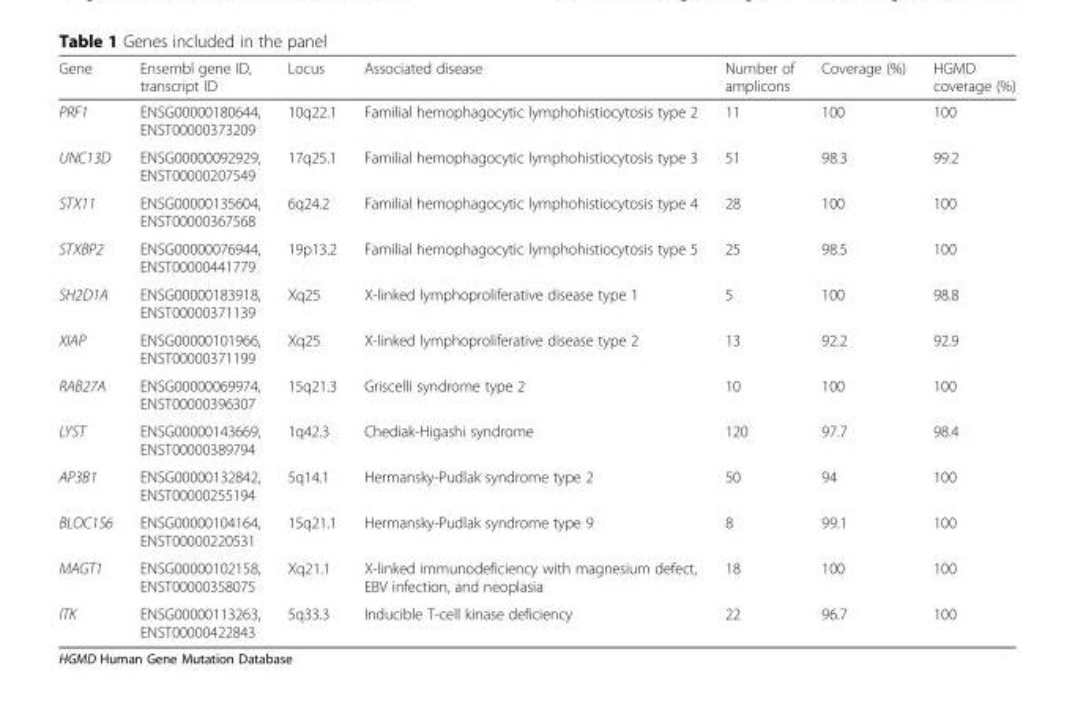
<table><thead><tr><td>Gene</td><td>Ensembl gene ID, transcript ID</td><td>Locus</td><td>Associated disease</td><td>Number of amplicons</td><td>Coverage (%)</td><td>HGMD coverage (%)</td></tr></thead><tbody><tr><td>PRF1</td><td>ENSG00000180644, ENST00000373209</td><td>10q22.1</td><td>Familial hemophagocytic lymphohistiocytosis type 2</td><td>11</td><td>100</td><td>100</td></tr><tr><td>UNC13D</td><td>ENSG00000092929, ENST00000207549</td><td>17q25.1</td><td>Familial hemophagocytic lymphohistiocytosis type 3</td><td>51</td><td>98.3</td><td>99.2</td></tr><tr><td>STX11</td><td>ENSG00000135604, ENST00000367568</td><td>6q24.2</td><td>Familial hemophagocytic lymphohistiocytosis type 4</td><td>28</td><td>100</td><td>100</td></tr><tr><td>STXBP2</td><td>ENSG00000076944, ENST00000441779</td><td>19p13.2</td><td>Familial hemophagocytic lymphohistiocytosis type 5</td><td>25</td><td>98.5</td><td>100</td></tr><tr><td>SH2D1A</td><td>ENSG00000183918, ENST00000371139</td><td>Xq25</td><td>X-linked lymphoproliferative disease type 1</td><td>5</td><td>100</td><td>98.8</td></tr><tr><td>XIAP</td><td>ENSG00000101966, ENST00000371199</td><td>Xq25</td><td>X-linked lymphoproliferative disease type 2</td><td>13</td><td>92.2</td><td>92.9</td></tr><tr><td>RAB27A</td><td>ENSG00000069974, ENST00000396307</td><td>15q21.3</td><td>Griscelli syndrome type 2</td><td>10</td><td>100</td><td>100</td></tr><tr><td>LYST</td><td>ENSG00000143669, ENST00000389794</td><td>1q42.3</td><td>Chediak-Higashi syndrome</td><td>120</td><td>97.7</td><td>98.4</td></tr><tr><td>AP3B1</td><td>ENSG00000132842, ENST00000255194</td><td>5q14.1</td><td>Hermansky-Pudlak syndrome type 2</td><td>50</td><td>94</td><td>100</td></tr><tr><td>BLOC1S6</td><td>ENSG00000104164, ENST00000220531</td><td>15q21.1</td><td>Hermansky-Pudlak syndrome type 9</td><td>8</td><td>99.1</td><td>100</td></tr><tr><td>MAGT1</td><td>ENSG00000102158, ENST00000358075</td><td>Xq21.1</td><td>X-linked immunodeficiency with magnesium defect, EBV infection, and neoplasia</td><td>18</td><td>100</td><td>100</td></tr><tr><td>ITK</td><td>ENSG00000113263, ENST00000422843</td><td>5q33.3</td><td>Inducible T-cell kinase deficiency</td><td>22</td><td>96.7</td><td>100</td></tr></tbody></table>